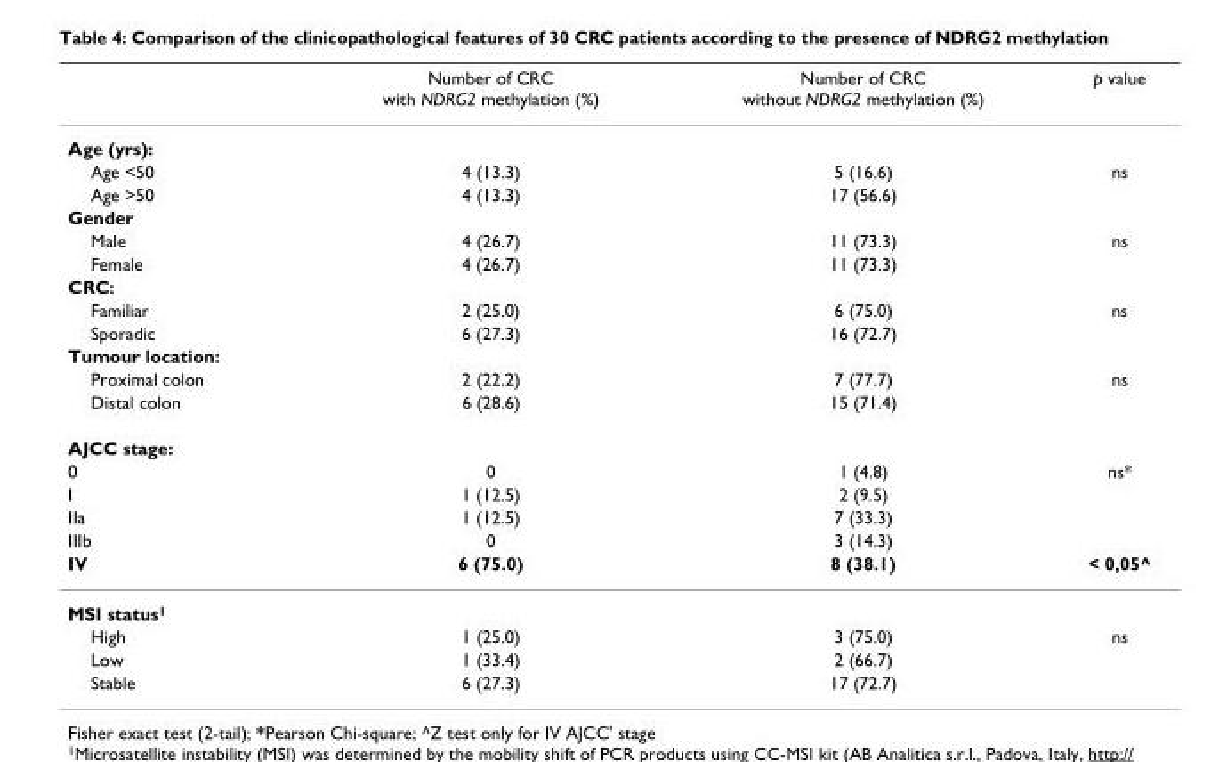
<table><thead><tr><td></td><td>Number of CRC with NDRG2 methylation (%)</td><td>Number of CRC without NDRG2 methylation (%)</td><td>p value</td></tr></thead><tbody><tr><td colspan="4">Age (yrs):</td></tr><tr><td>Age &lt;50</td><td>4 (13.3)</td><td>5 (16.6)</td><td>ns</td></tr><tr><td>Age &gt;50</td><td>4 (13.3)</td><td>17 (56.6)</td><td></td></tr><tr><td colspan="4">Gender</td></tr><tr><td>Male</td><td>4 (26.7)</td><td>11 (73.3)</td><td>ns</td></tr><tr><td>Female</td><td>4 (26.7)</td><td>11 (73.3)</td><td></td></tr><tr><td colspan="4">CRC:</td></tr><tr><td>Familiar</td><td>2 (25.0)</td><td>6 (75.0)</td><td>ns</td></tr><tr><td>Sporadic</td><td>6 (27.3)</td><td>16 (72.7)</td><td></td></tr><tr><td colspan="4">Tumour location:</td></tr><tr><td>Proximal colon</td><td>2 (22.2)</td><td>7 (77.7)</td><td>ns</td></tr><tr><td>Distal colon</td><td>6 (28.6)</td><td>15 (71.4)</td><td></td></tr><tr><td colspan="4">AJCC stage:</td></tr><tr><td>0</td><td>0</td><td>1 (4.8)</td><td>ns*</td></tr><tr><td>I</td><td>1 (12.5)</td><td>2 (9.5)</td><td></td></tr><tr><td>IIa</td><td>1 (12.5)</td><td>7 (33.3)</td><td></td></tr><tr><td>IIIb</td><td>0</td><td>3 (14.3)</td><td></td></tr><tr><td>IV</td><td>6 (75.0)</td><td>8 (38.1)</td><td>&lt; 0,05^</td></tr><tr><td colspan="4">MSI status<sup>1</sup></td></tr><tr><td>High</td><td>1 (25.0)</td><td>3 (75.0)</td><td>ns</td></tr><tr><td>Low</td><td>1 (33.4)</td><td>2 (66.7)</td><td></td></tr><tr><td>Stable</td><td>6 (27.3)</td><td>17 (72.7)</td><td></td></tr></tbody></table>